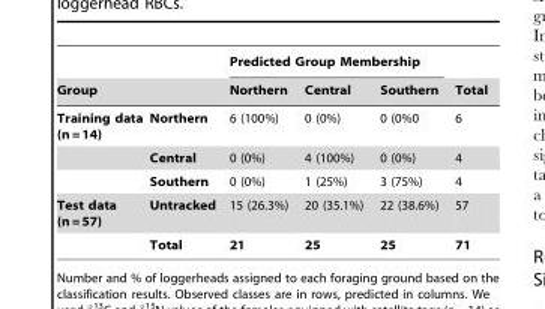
<table><thead><tr><td></td><td></td><td colspan="3">Predicted Group Membership</td><td rowspan="2">Total</td></tr><tr><td colspan="2">Group</td><td>Northern</td><td>Central</td><td>Southern</td></tr></thead><tbody><tr><td rowspan="3">Training data (n = 14)</td><td>Northern</td><td>6 (100%)</td><td>0 (0%)</td><td>0 (0%0</td><td>6</td></tr><tr><td>Central</td><td>0 (0%)</td><td>4 (100%)</td><td>0 (0%)</td><td>4</td></tr><tr><td>Southern</td><td>0 (0%)</td><td>1 (25%)</td><td>3 (75%)</td><td>4</td></tr><tr><td rowspan="2">Test data (n = 57)</td><td>Untracked</td><td>15 (26.3%)</td><td>20 (35.1%)</td><td>22 (38.6%)</td><td>57</td></tr><tr><td>Total</td><td>21</td><td>25</td><td>25</td><td>71</td></tr></tbody></table>